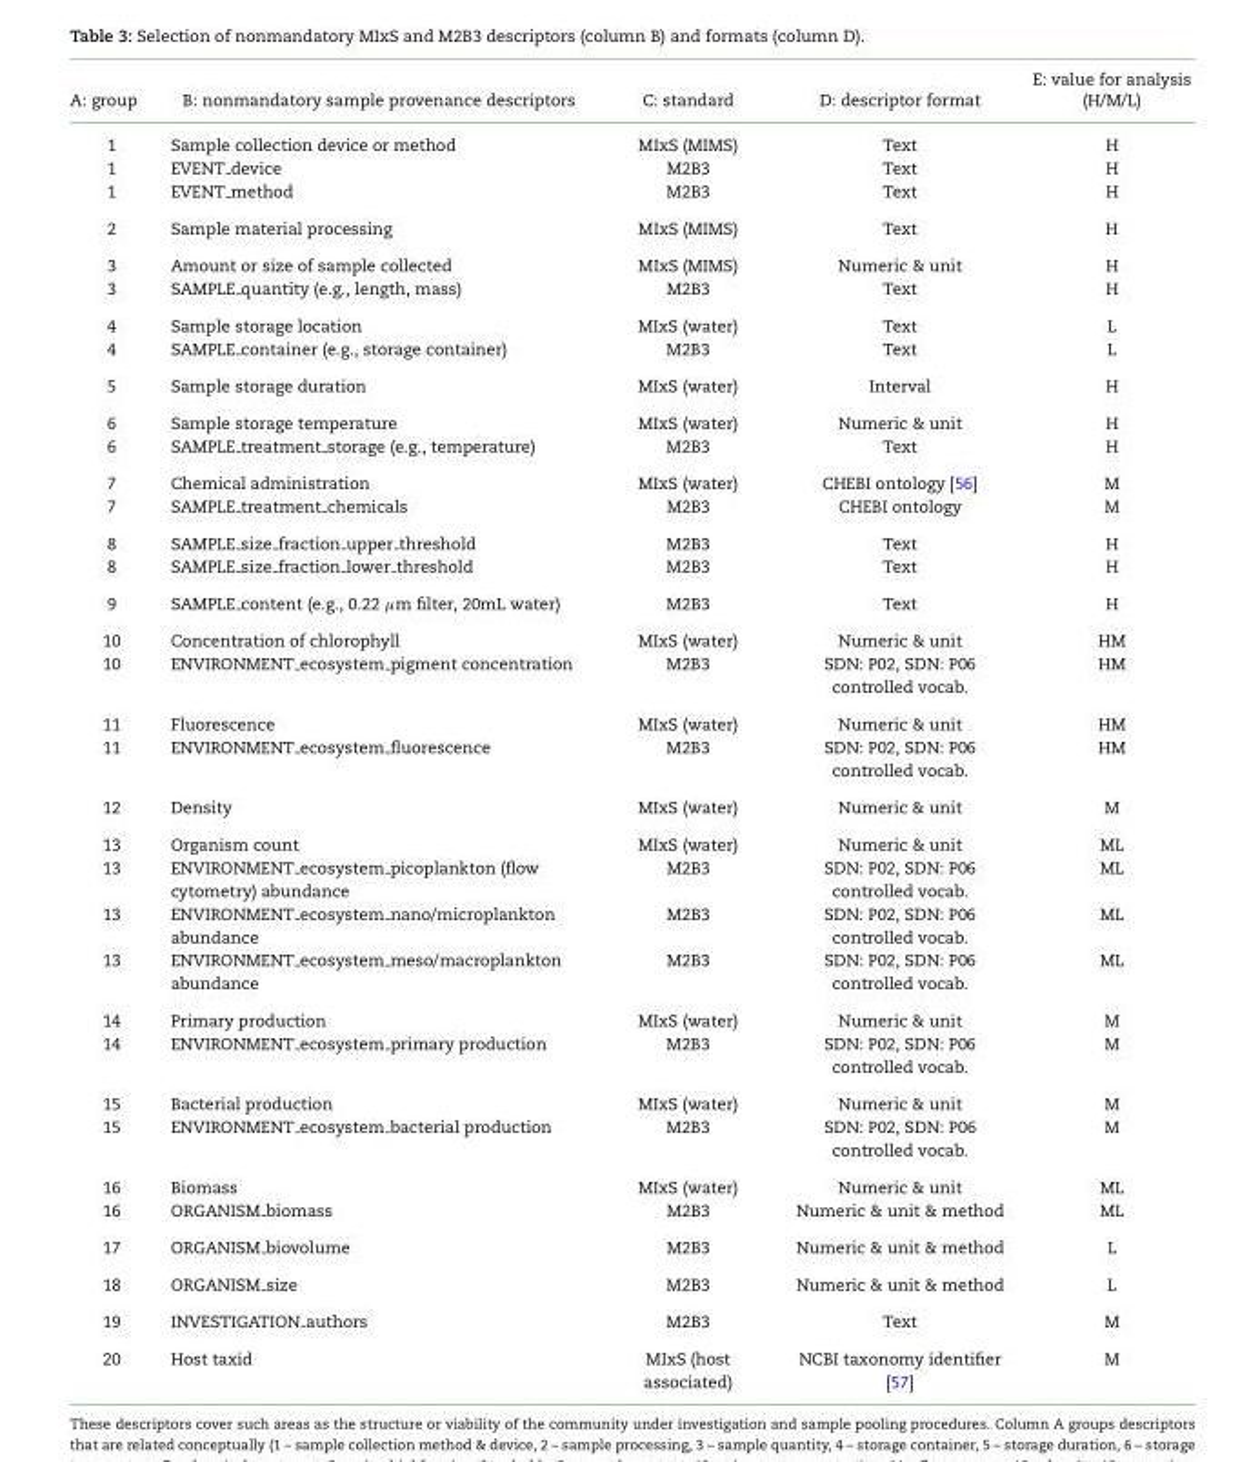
<table><thead><tr><td>A: group</td><td>B: nonmandatory sample provenance descriptors</td><td>C: standard</td><td>D: descriptor format</td><td>E: value for analysis (H/M/L)</td></tr></thead><tbody><tr><td>1</td><td>Sample collection device or method</td><td>MIxS (MIMS)</td><td>Text</td><td>H</td></tr><tr><td>1</td><td>EVENT device</td><td>M2B3</td><td>Text</td><td>H</td></tr><tr><td>1</td><td>EVENT method</td><td>M2B3</td><td>Text</td><td>H</td></tr><tr><td>2</td><td>Sample material processing</td><td>MIxS (MIMS)</td><td>Text</td><td>H</td></tr><tr><td>3</td><td>Amount or size of sample collected</td><td>MIxS (MIMS)</td><td>Numeric &amp; unit</td><td>H</td></tr><tr><td>3</td><td>SAMPLE quantity (e.g., length, mass)</td><td>M2B3</td><td>Text</td><td>H</td></tr><tr><td>4</td><td>Sample storage location</td><td>MIxS (water)</td><td>Text</td><td>L</td></tr><tr><td>4</td><td>SAMPLE container (e.g., storage container)</td><td>M2B3</td><td>Text</td><td>L</td></tr><tr><td>5</td><td>Sample storage duration</td><td>MIxS (water)</td><td>Interval</td><td>H</td></tr><tr><td>6</td><td>Sample storage temperature</td><td>MIxS (water)</td><td>Numeric &amp; unit</td><td>H</td></tr><tr><td>6</td><td>SAMPLE <sub>treatment</sub> storage (e.g., temperature)</td><td>M2B3</td><td>Text</td><td>H</td></tr><tr><td>7</td><td>Chemical administration</td><td>MIxS (water)</td><td>CHEBI ontology [56]</td><td>M</td></tr><tr><td>7</td><td>SAMPLE <sub>treatment</sub> chemicals</td><td>M2B3</td><td>CHEBI ontology</td><td>M</td></tr><tr><td>8</td><td>SAMPLE <sub>size</sub> fraction <sub>upper</sub> threshold</td><td>M2B3</td><td>Text</td><td>H</td></tr><tr><td>8</td><td>SAMPLE <sub>size</sub> fraction <sub>lower</sub> threshold</td><td>M2B3</td><td>Text</td><td>H</td></tr><tr><td>9</td><td>SAMPLE content (e.g., 0.22 μm filter, 20mL water)</td><td>M2B3</td><td>Text</td><td>H</td></tr><tr><td>10</td><td>Concentration of chlorophyll</td><td>MIxS (water)</td><td>Numeric &amp; unit</td><td>HM</td></tr><tr><td>10</td><td>ENVIRONMENT <sub>ecosystem</sub> pigment concentration</td><td>M2B3</td><td>SDN: P02, SDN: P06 controlled vocab.</td><td>HM</td></tr><tr><td>11</td><td>Fluorescence</td><td>MIxS (water)</td><td>Numeric &amp; unit</td><td>HM</td></tr><tr><td>11</td><td>ENVIRONMENT <sub>ecosystem</sub> fluorescence</td><td>M2B3</td><td>SDN: P02, SDN: P06 controlled vocab.</td><td>HM</td></tr><tr><td>12</td><td>Density</td><td>MIxS (water)</td><td>Numeric &amp; unit</td><td>M</td></tr><tr><td>13</td><td>Organism count</td><td>MIxS (water)</td><td>Numeric &amp; unit</td><td>ML</td></tr><tr><td>13</td><td>ENVIRONMENT <sub>ecosystem</sub> picoplankton (flow cytometry) abundance</td><td>M2B3</td><td>SDN: P02, SDN: P06 controlled vocab.</td><td>ML</td></tr><tr><td>13</td><td>ENVIRONMENT <sub>ecosystem</sub> nano/microplankton abundance</td><td>M2B3</td><td>SDN: P02, SDN: P06 controlled vocab.</td><td>ML</td></tr><tr><td>13</td><td>ENVIRONMENT <sub>ecosystem</sub> meso/macroplankton abundance</td><td>M2B3</td><td>SDN: P02, SDN: P06 controlled vocab.</td><td>ML</td></tr><tr><td>14</td><td>Primary production</td><td>MIxS (water)</td><td>Numeric &amp; unit</td><td>M</td></tr><tr><td>14</td><td>ENVIRONMENT <sub>ecosystem</sub> primary production</td><td>M2B3</td><td>SDN: P02, SDN: P06 controlled vocab.</td><td>M</td></tr><tr><td>15</td><td>Bacterial production</td><td>MIxS (water)</td><td>Numeric &amp; unit</td><td>M</td></tr><tr><td>15</td><td>ENVIRONMENT <sub>ecosystem</sub> bacterial production</td><td>M2B3</td><td>SDN: P02, SDN: P06 controlled vocab.</td><td>M</td></tr><tr><td>16</td><td>Biomass</td><td>MIxS (water)</td><td>Numeric &amp; unit</td><td>ML</td></tr><tr><td>16</td><td>ORGANISM biomass</td><td>M2B3</td><td>Numeric &amp; unit &amp; method</td><td>ML</td></tr><tr><td>17</td><td>ORGANISM biovolume</td><td>M2B3</td><td>Numeric &amp; unit &amp; method</td><td>L</td></tr><tr><td>18</td><td>ORGANISM size</td><td>M2B3</td><td>Numeric &amp; unit &amp; method</td><td>L</td></tr><tr><td>19</td><td>INVESTIGATION authors</td><td>M2B3</td><td>Text</td><td>M</td></tr><tr><td>20</td><td>Host taxid</td><td>MIxS (host associated)</td><td>NCBI taxonomy identifier [57]</td><td>M</td></tr></tbody></table>